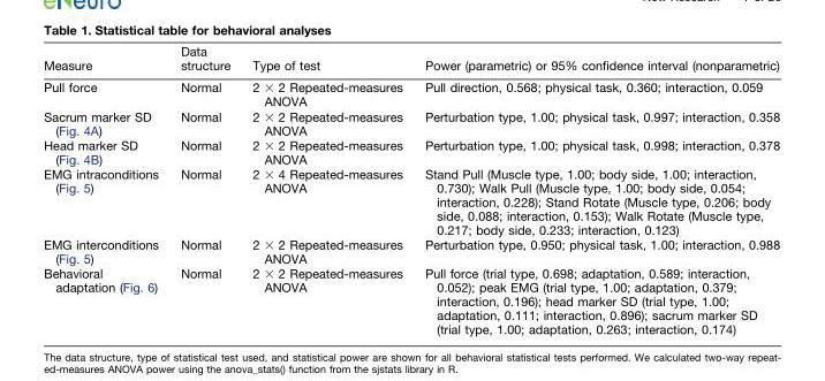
<table><thead><tr><td>Measure</td><td>Data structure</td><td>Type of test</td><td>Power (parametric) or 95% confidence interval (nonparametric)</td></tr></thead><tbody><tr><td>Pull force</td><td>Normal</td><td>2 × 2 Repeated-measures ANOVA</td><td>Pull direction, 0.568; physical task, 0.360; interaction, 0.059</td></tr><tr><td>Sacrum marker SD (Fig. 4A)</td><td>Normal</td><td>2 × 2 Repeated-measures ANOVA</td><td>Perturbation type, 1.00; physical task, 0.997; interaction, 0.358</td></tr><tr><td>Head marker SD (Fig. 4B)</td><td>Normal</td><td>2 × 2 Repeated-measures ANOVA</td><td>Perturbation type, 1.00; physical task, 0.998; interaction, 0.378</td></tr><tr><td>EMG intraconditions (Fig. 5)</td><td>Normal</td><td>2 × 4 Repeated-measures ANOVA</td><td>Stand Pull (Muscle type, 1.00; body side, 1.00; interaction, 0.730); Walk Pull (Muscle type, 1.00; body side, 0.054; interaction, 0.228); Stand Rotate (Muscle type, 0.206; body side, 0.088; interaction, 0.153); Walk Rotate (Muscle type, 0.217; body side, 0.233; interaction, 0.123)</td></tr><tr><td>EMG interconditions (Fig. 5)</td><td>Normal</td><td>2 × 2 Repeated-measures ANOVA</td><td>Perturbation type, 0.950; physical task, 1.00; interaction, 0.988</td></tr><tr><td>Behavioral adaptation (Fig. 6)</td><td>Normal</td><td>2 × 2 Repeated-measures ANOVA</td><td>Pull force (trial type, 0.698; adaptation, 0.589; interaction, 0.052); peak EMG (trial type, 1.00; adaptation, 0.379; interaction, 0.196); head marker SD (trial type, 1.00; adaptation, 0.111; interaction, 0.896); sacrum marker SD (trial type, 1.00; adaptation, 0.263; interaction, 0.174)</td></tr></tbody></table>